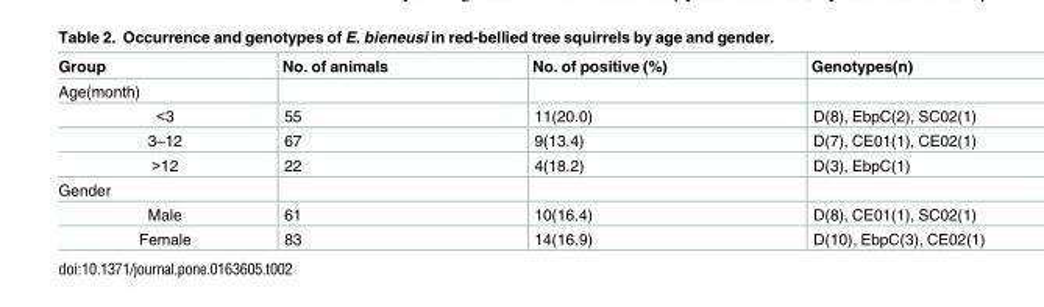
<table><thead><tr><td>Group</td><td>No. of animals</td><td>No. of positive (%)</td><td>Genotypes(n)</td></tr></thead><tbody><tr><td colspan="4">Age(month)</td></tr><tr><td>&lt;3</td><td>55</td><td>11(20.0)</td><td>D(8), EbpC(2), SC02(1)</td></tr><tr><td>3–12</td><td>67</td><td>9(13.4)</td><td>D(7), CE01(1), CE02(1)</td></tr><tr><td>&gt;12</td><td>22</td><td>4(18.2)</td><td>D(3), EbpC(1)</td></tr><tr><td colspan="4">Gender</td></tr><tr><td>Male</td><td>61</td><td>10(16.4)</td><td>D(8), CE01(1), SC02(1)</td></tr><tr><td>Female</td><td>83</td><td>14(16.9)</td><td>D(10), EbpC(3), CE02(1)</td></tr></tbody></table>